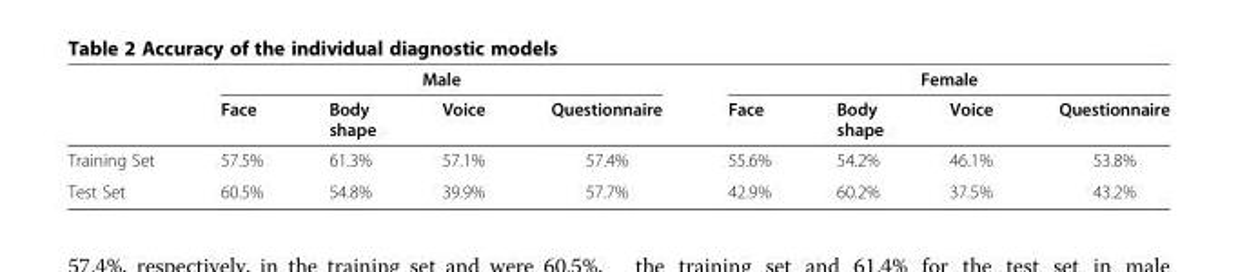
<table><thead><tr><td rowspan="2"></td><td colspan="4">Male</td><td colspan="4">Female</td></tr><tr><td>Face</td><td>Body shape</td><td>Voice</td><td>Questionnaire</td><td>Face</td><td>Body shape</td><td>Voice</td><td>Questionnaire</td></tr></thead><tbody><tr><td>Training Set</td><td>57.5%</td><td>61.3%</td><td>57.1%</td><td>57.4%</td><td>55.6%</td><td>54.2%</td><td>46.1%</td><td>53.8%</td></tr><tr><td>Test Set</td><td>60.5%</td><td>54.8%</td><td>39.9%</td><td>57.7%</td><td>42.9%</td><td>60.2%</td><td>37.5%</td><td>43.2%</td></tr></tbody></table>